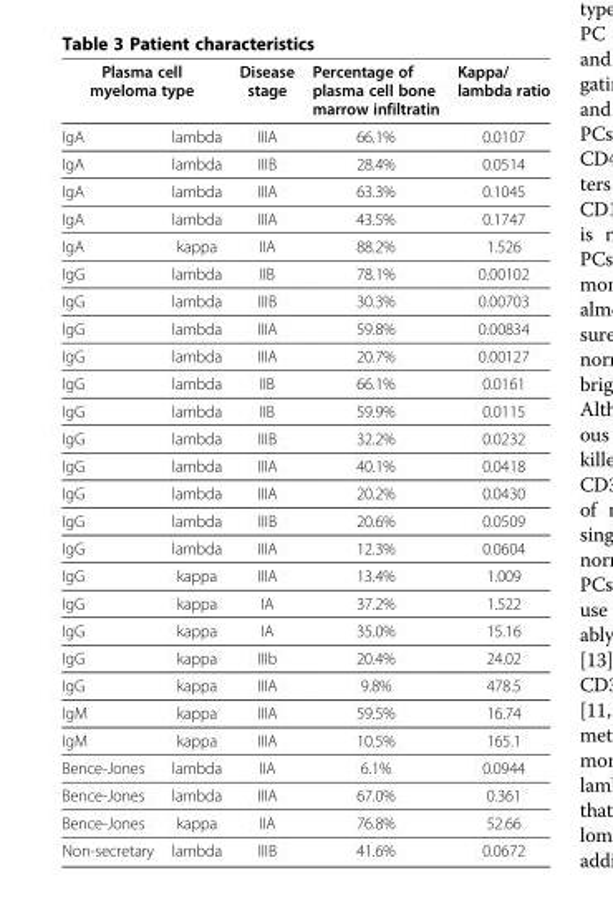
<table><thead><tr><td colspan="2">Plasma cell myeloma type</td><td rowspan="2">Disease stage IIIA</td><td rowspan="2">Percentage of plasma cell bone marrow infiltratin 66.1%</td><td rowspan="2">Kappa/ lambda ratio 0.0107</td></tr><tr><td>IgA</td><td>lambda</td></tr></thead><tbody><tr><td>IgA</td><td>lambda</td><td>IIIB</td><td>28.4%</td><td>0.0514</td></tr><tr><td>IgA</td><td>lambda</td><td>IIIA</td><td>63.3%</td><td>0.1045</td></tr><tr><td>IgA</td><td>lambda</td><td>IIIA</td><td>43.5%</td><td>0.1747</td></tr><tr><td>IgA</td><td>kappa</td><td>IIA</td><td>88.2%</td><td>1.526</td></tr><tr><td>IgG</td><td>lambda</td><td>IIB</td><td>78.1%</td><td>0.00102</td></tr><tr><td>IgG</td><td>lambda</td><td>IIIB</td><td>30.3%</td><td>0.00703</td></tr><tr><td>IgG</td><td>lambda</td><td>IIIA</td><td>59.8%</td><td>0.00834</td></tr><tr><td>IgG</td><td>lambda</td><td>IIIA</td><td>20.7%</td><td>0.00127</td></tr><tr><td>IgG</td><td>lambda</td><td>IIB</td><td>66.1%</td><td>0.0161</td></tr><tr><td>IgG</td><td>lambda</td><td>IIB</td><td>59.9%</td><td>0.0115</td></tr><tr><td>IgG</td><td>lambda</td><td>IIIB</td><td>32.2%</td><td>0.0232</td></tr><tr><td>IgG</td><td>lambda</td><td>IIIA</td><td>40.1%</td><td>0.0418</td></tr><tr><td>IgG</td><td>lambda</td><td>IIIA</td><td>20.2%</td><td>0.0430</td></tr><tr><td>IgG</td><td>lambda</td><td>IIIB</td><td>20.6%</td><td>0.0509</td></tr><tr><td>IgG</td><td>lambda</td><td>IIIA</td><td>12.3%</td><td>0.0604</td></tr><tr><td>IgG</td><td>kappa</td><td>IIIA</td><td>13.4%</td><td>1.009</td></tr><tr><td>IgG</td><td>kappa</td><td>IA</td><td>37.2%</td><td>1.522</td></tr><tr><td>IgG</td><td>kappa</td><td>IA</td><td>35.0%</td><td>15.16</td></tr><tr><td>IgG</td><td>kappa</td><td>IIIb</td><td>20.4%</td><td>24.02</td></tr><tr><td>IgG</td><td>kappa</td><td>IIIA</td><td>9.8%</td><td>478.5</td></tr><tr><td>IgM</td><td>kappa</td><td>IIIA</td><td>59.5%</td><td>16.74</td></tr><tr><td>IgM</td><td>kappa</td><td>IIIA</td><td>10.5%</td><td>165.1</td></tr><tr><td>Bence-Jones</td><td>lambda</td><td>IIA</td><td>6.1%</td><td>0.0944</td></tr><tr><td>Bence-Jones</td><td>lambda</td><td>IIIA</td><td>67.0%</td><td>0.361</td></tr><tr><td>Bence-Jones</td><td>kappa</td><td>IIA</td><td>76.8%</td><td>52.66</td></tr><tr><td>Non-secretary</td><td>lambda</td><td>IIIB</td><td>41.6%</td><td>0.0672</td></tr></tbody></table>